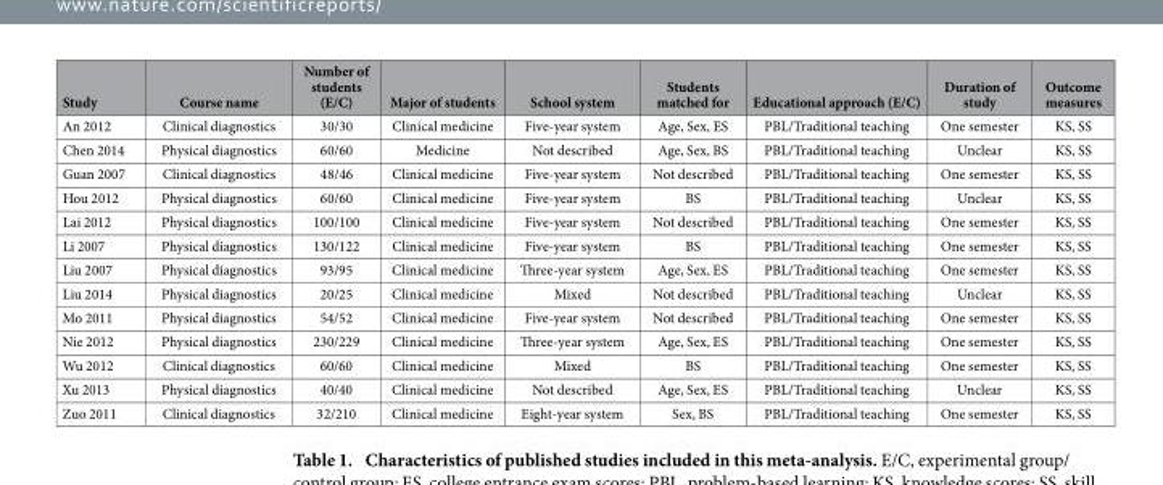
<table><thead><tr><td>Study</td><td>Course name</td><td>Number of students (E/C)</td><td>Major of students</td><td>School system</td><td>Students matched for</td><td>Educational approach (E/C)</td><td>Duration of study</td><td>Outcome measures</td></tr></thead><tbody><tr><td>An 2012</td><td>Clinical diagnostics</td><td>30/30</td><td>Clinical medicine</td><td>Five-year system</td><td>Age, Sex, ES</td><td>PBL/Traditional teaching</td><td>One semester</td><td>KS, SS</td></tr><tr><td>Chen 2014</td><td>Physical diagnostics</td><td>60/60</td><td>Medicine</td><td>Not described</td><td>Age, Sex, BS</td><td>PBL/Traditional teaching</td><td>Unclear</td><td>KS, SS</td></tr><tr><td>Guan 2007</td><td>Clinical diagnostics</td><td>48/46</td><td>Clinical medicine</td><td>Five-year system</td><td>Not described</td><td>PBL/Traditional teaching</td><td>One semester</td><td>KS, SS</td></tr><tr><td>Hou 2012</td><td>Physical diagnostics</td><td>60/60</td><td>Clinical medicine</td><td>Five-year system</td><td>BS</td><td>PBL/Traditional teaching</td><td>Unclear</td><td>KS, SS</td></tr><tr><td>Lai 2012</td><td>Physical diagnostics</td><td>100/100</td><td>Clinical medicine</td><td>Five-year system</td><td>Not described</td><td>PBL/Traditional teaching</td><td>One semester</td><td>KS, SS</td></tr><tr><td>Li 2007</td><td>Physical diagnostics</td><td>130/122</td><td>Clinical medicine</td><td>Five-year system</td><td>BS</td><td>PBL/Traditional teaching</td><td>One semester</td><td>KS, SS</td></tr><tr><td>Liu 2007</td><td>Physical diagnostics</td><td>93/95</td><td>Clinical medicine</td><td>Three-year system</td><td>Age, Sex, ES</td><td>PBL/Traditional teaching</td><td>One semester</td><td>KS, SS</td></tr><tr><td>Liu 2014</td><td>Physical diagnostics</td><td>20/25</td><td>Clinical medicine</td><td>Mixed</td><td>Not described</td><td>PBL/Traditional teaching</td><td>Unclear</td><td>KS, SS</td></tr><tr><td>Mo 2011</td><td>Physical diagnostics</td><td>54/52</td><td>Clinical medicine</td><td>Five-year system</td><td>Not described</td><td>PBL/Traditional teaching</td><td>One semester</td><td>KS, SS</td></tr><tr><td>Nie 2012</td><td>Physical diagnostics</td><td>230/229</td><td>Clinical medicine</td><td>Three-year system</td><td>Age, Sex, ES</td><td>PBL/Traditional teaching</td><td>One semester</td><td>KS, SS</td></tr><tr><td>Wu 2012</td><td>Clinical diagnostics</td><td>60/60</td><td>Clinical medicine</td><td>Mixed</td><td>BS</td><td>PBL/Traditional teaching</td><td>One semester</td><td>KS, SS</td></tr><tr><td>Xu 2013</td><td>Physical diagnostics</td><td>40/40</td><td>Clinical medicine</td><td>Not described</td><td>Age, Sex, ES</td><td>PBL/Traditional teaching</td><td>Unclear</td><td>KS, SS</td></tr><tr><td>Zuo 2011</td><td>Clinical diagnostics</td><td>32/210</td><td>Clinical medicine</td><td>Eight-year system</td><td>Sex, BS</td><td>PBL/Traditional teaching</td><td>One semester</td><td>KS, SS</td></tr></tbody></table>